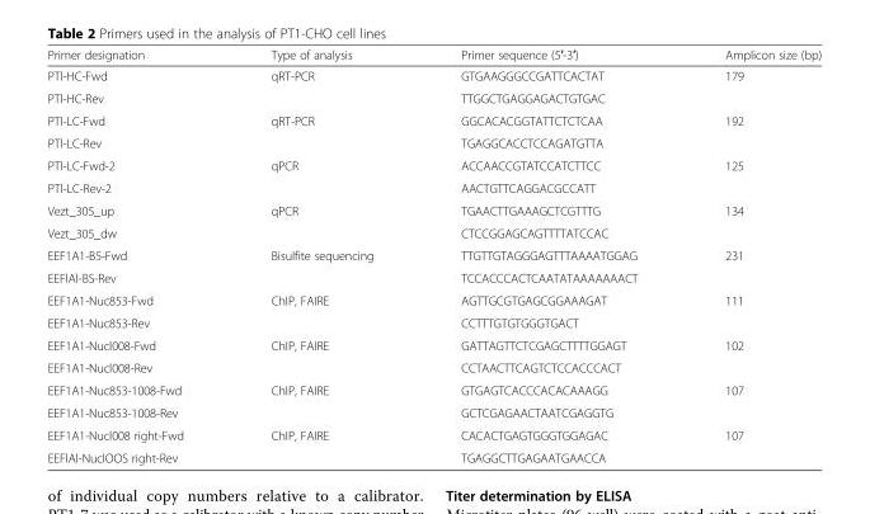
<table><thead><tr><td>Primer designation</td><td>Type of analysis</td><td>Primer sequence (5′-3′)</td><td>Amplicon size (bp)</td></tr></thead><tbody><tr><td>PTl-HC-Fwd</td><td rowspan="2">qRT-PCR</td><td>GTGAAGGGCCGATTCACTAT</td><td rowspan="2">179</td></tr><tr><td>PTl-HC-Rev</td><td>TTGGCTGAGGAGACTGTGAC</td></tr><tr><td>PTl-LC-Fwd</td><td rowspan="2">qRT-PCR</td><td>GGCACACGGTATTCTCTCAA</td><td rowspan="2">192</td></tr><tr><td>PTl-LC-Rev</td><td>TGAGGCACCTCCAGATGTTA</td></tr><tr><td>PTl-LC-Fwd-2</td><td rowspan="2">qPCR</td><td>ACCAACCGTATCCATCTTCC</td><td rowspan="2">125</td></tr><tr><td>PTl-LC-Rev-2</td><td>AACTGTTCAGGACGCCATT</td></tr><tr><td>Vezt_305_up</td><td rowspan="2">qPCR</td><td>TGAACTTGAAAGCTCGTTTG</td><td rowspan="2">134</td></tr><tr><td>Vezt_305_dw</td><td>CTCCGGAGCAGTTTTATCCAC</td></tr><tr><td>EEF1A1-B5-Fwd</td><td rowspan="2">Bisulfite sequencing</td><td>TTGTTGTAGGGAGTTTAAAATGGAG</td><td rowspan="2">231</td></tr><tr><td>EEFlAl-BS-Rev</td><td>TCCACCCACTCAATATAAAAAAACT</td></tr><tr><td>EEF1A1-Nuc853-Fwd</td><td rowspan="2">ChIP, FAIRE</td><td>AGTTGCGTGAGCGGAAAGAT</td><td rowspan="2">111</td></tr><tr><td>EEF1A1-Nuc853-Rev</td><td>CCTTTGTGTGGGTGACT</td></tr><tr><td>EEF1A1-Nucl008-Fwd</td><td rowspan="2">ChIP, FAIRE</td><td>GATTAGTTCTCGAGCTTTTGGAGT</td><td rowspan="2">102</td></tr><tr><td>EEF1A1-Nucl008-Rev</td><td>CCTAACTTCAGTCTCCACCCACT</td></tr><tr><td>EEF1A1-Nuc853-1008-Fwd</td><td rowspan="2">ChIP, FAIRE</td><td>GTGAGTCACCCACACAAAGG</td><td rowspan="2">107</td></tr><tr><td>EEF1A1-Nuc853-1008-Rev</td><td>GCTCGAGAACTAATCGAGGTG</td></tr><tr><td>EEF1A1-Nucl008 right-Fwd</td><td rowspan="2">ChIP, FAIRE</td><td>CACACTGAGTGGGTGGAGAC</td><td rowspan="2">107</td></tr><tr><td>EEFlAl-NuclOOS right-Rev</td><td>TGAGGCTTGAGAATGAACCA</td></tr></tbody></table>